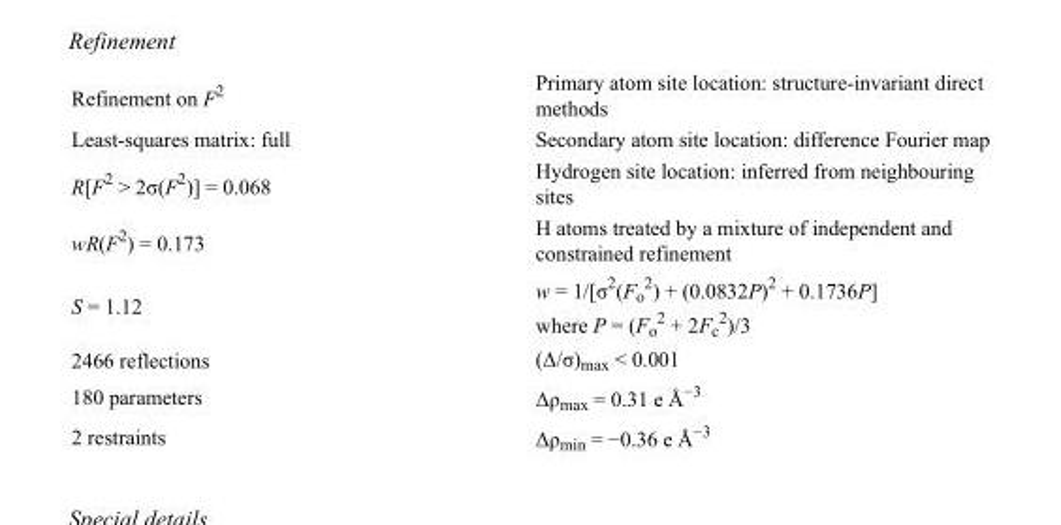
<table><tbody><tr><td>Refinement on F<sup>2</sup></td><td>Primary atom site location: structure-invariant direct methods</td></tr><tr><td>Least-squares matrix: full</td><td>Secondary atom site location: difference Fourier map</td></tr><tr><td>R[F<sup>2</sup> &gt; 2σ(F<sup>2</sup>)] = 0.068</td><td>Hydrogen site location: inferred from neighbouring sites</td></tr><tr><td>wR(F<sup>2</sup>) = 0.173</td><td>H atoms treated by a mixture of independent and constrained refinement</td></tr><tr><td>S = 1.12</td><td>w = 1/[σ<sup>2</sup>(F<sub>o</sub> <sup>2</sup>) + (0.0832P)<sup>2</sup> + 0.1736P] where P = (F<sub>o</sub> <sup>2</sup> + 2F<sub>c</sub> <sup>2</sup>)/3</td></tr><tr><td>2466 reflections</td><td>(Δ/σ)<sub>max</sub> &lt; 0.001</td></tr><tr><td>180 parameters</td><td>Δρ<sub>max</sub> = 0.31 e Å<sup>−3</sup></td></tr><tr><td>2 restraints</td><td>Δρ<sub>min</sub> = −0.36 e Å<sup>−3</sup></td></tr></tbody></table>